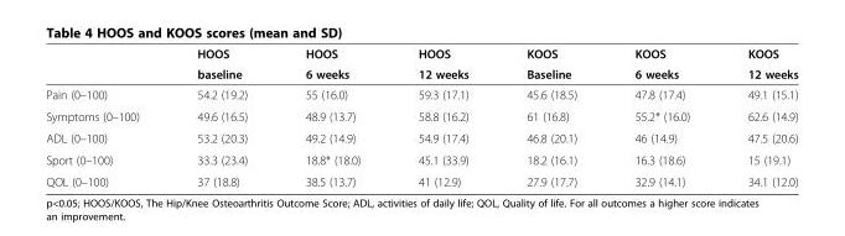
<table><thead><tr><td rowspan="2"></td><td rowspan="2">HOOS baseline</td><td rowspan="2">HOOS 6 weeks</td><td rowspan="2">HOOS 12 weeks</td><td rowspan="2">KOOS Baseline</td><td rowspan="2">KOOS 6 weeks</td><td rowspan="2">KOOS 12 weeks</td></tr><tr></tr></thead><tbody><tr><td>Pain (0–100)</td><td>54.2 (19.2)</td><td>55 (16.0)</td><td>59.3 (17.1)</td><td>45.6 (18.5)</td><td>47.8 (17.4)</td><td>49.1 (15.1)</td></tr><tr><td>Symptoms (0–100)</td><td>49.6 (16.5)</td><td>48.9 (13.7)</td><td>58.8 (16.2)</td><td>61 (16.8)</td><td>55.2* (16.0)</td><td>62.6 (14.9)</td></tr><tr><td>ADL (0–100)</td><td>53.2 (20.3)</td><td>49.2 (14.9)</td><td>54.9 (17.4)</td><td>46.8 (20.1)</td><td>46 (14.9)</td><td>47.5 (20.6)</td></tr><tr><td>Sport (0–100)</td><td>33.3 (23.4)</td><td>18.8* (18.0)</td><td>45.1 (33.9)</td><td>18.2 (16.1)</td><td>16.3 (18.6)</td><td>15 (19.1)</td></tr><tr><td>QOL (0–100)</td><td>37 (18.8)</td><td>38.5 (13.7)</td><td>41 (12.9)</td><td>27.9 (17.7)</td><td>32.9 (14.1)</td><td>34.1 (12.0)</td></tr></tbody></table>